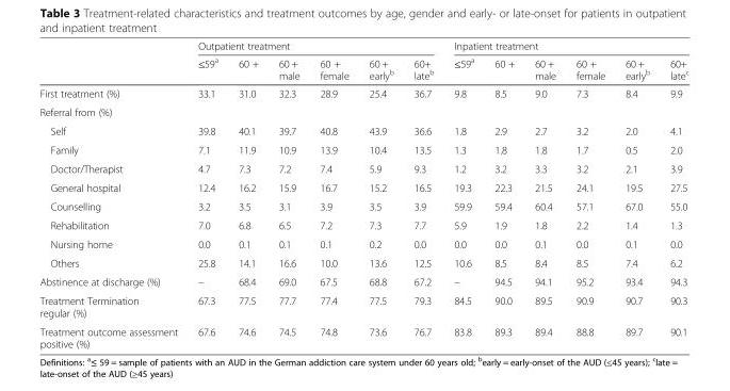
<table><thead><tr><td rowspan="2"></td><td colspan="6">Outpatient treatment</td><td colspan="6">Inpatient treatment</td></tr><tr><td>≤59<sup>a</sup></td><td>60 +</td><td>60 + male</td><td>60 + female</td><td>60 + early<sup>b</sup></td><td>60+ late<sup>b</sup></td><td>≤59<sup>a</sup></td><td>60 +</td><td>60 + male</td><td>60 + female</td><td>60 + early<sup>b</sup></td><td>60+ late<sup>c</sup></td></tr></thead><tbody><tr><td>First treatment (%)</td><td>33.1</td><td>31.0</td><td>32.3</td><td>28.9</td><td>25.4</td><td>36.7</td><td>9.8</td><td>8.5</td><td>9.0</td><td>7.3</td><td>8.4</td><td>9.9</td></tr><tr><td colspan="13">Referral from (%)</td></tr><tr><td>Self</td><td>39.8</td><td>40.1</td><td>39.7</td><td>40.8</td><td>43.9</td><td>36.6</td><td>1.8</td><td>2.9</td><td>2.7</td><td>3.2</td><td>2.0</td><td>4.1</td></tr><tr><td>Family</td><td>7.1</td><td>11.9</td><td>10.9</td><td>13.9</td><td>10.4</td><td>13.5</td><td>1.3</td><td>1.8</td><td>1.8</td><td>1.7</td><td>0.5</td><td>2.0</td></tr><tr><td>Doctor/Therapist</td><td>4.7</td><td>7.3</td><td>7.2</td><td>7.4</td><td>5.9</td><td>9.3</td><td>1.2</td><td>3.2</td><td>3.3</td><td>3.2</td><td>2.1</td><td>3.9</td></tr><tr><td>General hospital</td><td>12.4</td><td>16.2</td><td>15.9</td><td>16.7</td><td>15.2</td><td>16.5</td><td>19.3</td><td>22.3</td><td>21.5</td><td>24.1</td><td>19.5</td><td>27.5</td></tr><tr><td>Counselling</td><td>3.2</td><td>3.5</td><td>3.1</td><td>3.9</td><td>3.5</td><td>3.9</td><td>59.9</td><td>59.4</td><td>60.4</td><td>57.1</td><td>67.0</td><td>55.0</td></tr><tr><td>Rehabilitation</td><td>7.0</td><td>6.8</td><td>6.5</td><td>7.2</td><td>7.3</td><td>7.7</td><td>5.9</td><td>1.9</td><td>1.8</td><td>2.2</td><td>1.4</td><td>1.3</td></tr><tr><td>Nursing home</td><td>0.0</td><td>0.1</td><td>0.1</td><td>0.1</td><td>0.2</td><td>0.0</td><td>0.0</td><td>0.0</td><td>0.1</td><td>0.0</td><td>0.1</td><td>0.0</td></tr><tr><td>Others</td><td>25.8</td><td>14.1</td><td>16.6</td><td>10.0</td><td>13.6</td><td>12.5</td><td>10.6</td><td>8.5</td><td>8.4</td><td>8.5</td><td>7.4</td><td>6.2</td></tr><tr><td>Abstinence at discharge (%)</td><td>–</td><td>68.4</td><td>69.0</td><td>67.5</td><td>68.8</td><td>67.2</td><td>–</td><td>94.5</td><td>94.1</td><td>95.2</td><td>93.4</td><td>94.3</td></tr><tr><td>Treatment Termination regular (%)</td><td>67.3</td><td>77.5</td><td>77.7</td><td>77.4</td><td>77.5</td><td>79.3</td><td>84.5</td><td>90.0</td><td>89.5</td><td>90.9</td><td>90.7</td><td>90.3</td></tr><tr><td>Treatment outcome assessment positive (%)</td><td>67.6</td><td>74.6</td><td>74.5</td><td>74.8</td><td>73.6</td><td>76.7</td><td>83.8</td><td>89.3</td><td>89.4</td><td>88.8</td><td>89.7</td><td>90.1</td></tr></tbody></table>